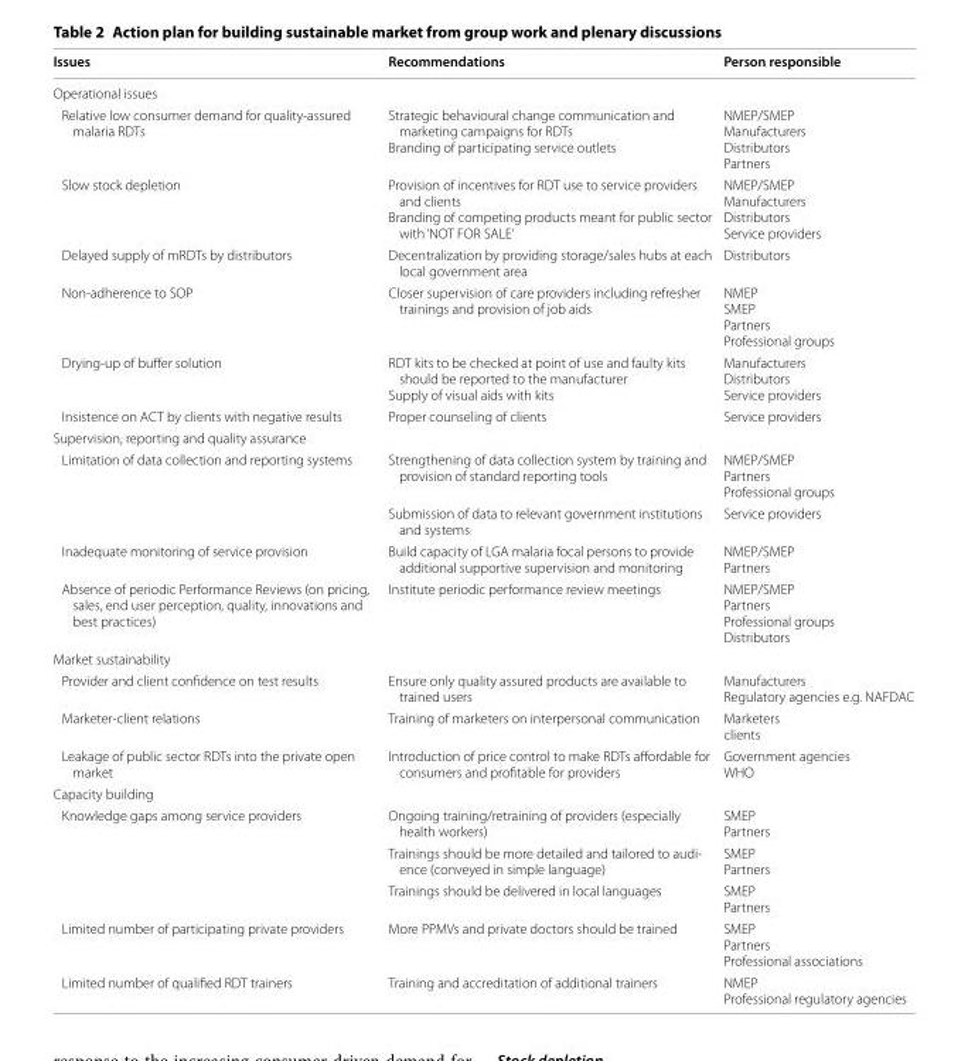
<table><thead><tr><td>Issues</td><td>Recommendations</td><td>Person responsible</td></tr></thead><tbody><tr><td colspan="3">Operational issues</td></tr><tr><td>Relative low consumer demand for quality-assured malaria RDTs</td><td>Strategic behavioural change communication and marketing campaigns for RDTs Branding of participating service outlets</td><td>NMEP/SMEP Manufacturers Distributors Partners</td></tr><tr><td>Slow stock depletion</td><td>Provision of incentives for RDT use to service providers and clients Branding of competing products meant for public sector with ‘NOT FOR SALE’</td><td>NMEP/SMEP Manufacturers Distributors Service providers</td></tr><tr><td>Delayed supply of mRDTs by distributors</td><td>Decentralization by providing storage/sales hubs at each local government area</td><td>Distributors</td></tr><tr><td>Non-adherence to SOP</td><td>Closer supervision of care providers including refresher trainings and provision of job aids</td><td>NMEP SMEP Partners Professional groups</td></tr><tr><td>Drying-up of buffer solution</td><td>RDT kits to be checked at point of use and faulty kits should be reported to the manufacturer Supply of visual aids with kits</td><td>Manufacturers Distributors Service providers</td></tr><tr><td>Insistence on ACT by clients with negative results</td><td>Proper counseling of clients</td><td>Service providers</td></tr><tr><td colspan="3">Supervision, reporting and quality assurance</td></tr><tr><td rowspan="2">Limitation of data collection and reporting systems</td><td>Strengthening of data collection system by training and provision of standard reporting tools</td><td>NMEP/SMEP Partners Professional groups</td></tr><tr><td>Submission of data to relevant government institutions and systems</td><td>Service providers</td></tr><tr><td>Inadequate monitoring of service provision</td><td>Build capacity of LGA malaria focal persons to provide additional supportive supervision and monitoring</td><td>NMEP/SMEP Partners</td></tr><tr><td>Absence of periodic Performance Reviews (on pricing, sales, end user perception, quality, innovations and best practices)</td><td>Institute periodic performance review meetings</td><td>NMEP/SMEP Partners Professional groups Distributors</td></tr><tr><td colspan="3">Market sustainability</td></tr><tr><td>Provider and client confidence on test results</td><td>Ensure only quality assured products are available to trained users</td><td>Manufacturers Regulatory agencies e.g. NAFDAC</td></tr><tr><td>Marketer-client relations</td><td>Training of marketers on interpersonal communication</td><td>Marketers clients</td></tr><tr><td>Leakage of public sector RDTs into the private open market</td><td>Introduction of price control to make RDTs affordable for consumers and profitable for providers</td><td>Government agencies WHO</td></tr><tr><td colspan="3">Capacity building</td></tr><tr><td rowspan="3">Knowledge gaps among service providers</td><td>Ongoing training/retraining of providers (especially health workers)</td><td>SMEP Partners</td></tr><tr><td>Trainings should be more detailed and tailored to audi- ence (conveyed in simple language)</td><td>SMEP Partners</td></tr><tr><td>Trainings should be delivered in local languages</td><td>SMEP Partners</td></tr><tr><td>Limited number of participating private providers</td><td>More PPMVs and private doctors should be trained</td><td>SMEP Partners Professional associations</td></tr><tr><td>Limited number of qualified RDT trainers</td><td>Training and accreditation of additional trainers</td><td>NMEP Professional regulatory agencies</td></tr></tbody></table>